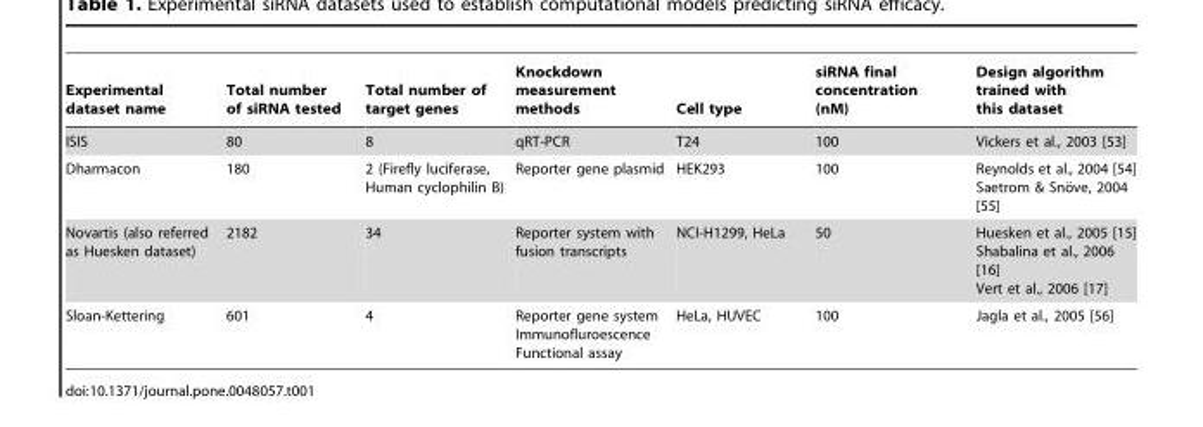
<table><thead><tr><td>Experimental dataset name</td><td>Total number of siRNA tested</td><td>Total number of target genes</td><td>Knockdown measurement methods</td><td>Cell type</td><td>siRNA final concentration (nM)</td><td>Design algorithm trained with this dataset</td></tr></thead><tbody><tr><td>ISIS</td><td>80</td><td>8</td><td>qRT-PCR</td><td>T24</td><td>100</td><td>Vickers et al., 2003 [53]</td></tr><tr><td>Dharmacon</td><td>180</td><td>2 (Firefly luciferase, Human cyclophilin B)</td><td>Reporter gene plasmid</td><td>HEK293</td><td>100</td><td>Reynolds et al., 2004 [54] Saetrom &amp; Sno¨ve, 2004 [55]</td></tr><tr><td>Novartis (also referred as Huesken dataset)</td><td>2182</td><td>34</td><td>Reporter system with fusion transcripts</td><td>NCI-H1299, HeLa</td><td>50</td><td>Huesken et al., 2005 [15] Shabalina et al., 2006 [16] Vert et al., 2006 [17]</td></tr><tr><td>Sloan-Kettering</td><td>601</td><td>4</td><td>Reporter gene system Immunofluroescence Functional assay</td><td>HeLa, HUVEC</td><td>100</td><td>Jagla et al., 2005 [56]</td></tr></tbody></table>